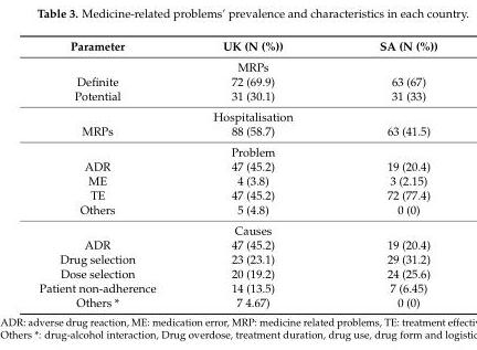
<table><thead><tr><td>Parameter</td><td>UK (N (%))</td><td>SA (N (%))</td></tr></thead><tbody><tr><td colspan="3">MRPs</td></tr><tr><td>Definite</td><td>72 (69.9)</td><td>63 (67)</td></tr><tr><td>Potential</td><td>31 (30.1)</td><td>31 (33)</td></tr><tr><td colspan="3">Hospitalisation</td></tr><tr><td>MRPs</td><td>88 (58.7)</td><td>63 (41.5)</td></tr><tr><td colspan="3">Problem</td></tr><tr><td>ADR</td><td>47 (45.2)</td><td>19 (20.4)</td></tr><tr><td>ME</td><td>4 (3.8)</td><td>3 (2.15)</td></tr><tr><td>TE</td><td>47 (45.2)</td><td>72 (77.4)</td></tr><tr><td>Others</td><td>5 (4.8)</td><td>0 (0)</td></tr><tr><td colspan="3">Causes</td></tr><tr><td>ADR</td><td>47 (45.2)</td><td>19 (20.4)</td></tr><tr><td>Drug selection</td><td>23 (23.1)</td><td>29 (31.2)</td></tr><tr><td>Dose selection</td><td>20 (19.2)</td><td>24 (25.6)</td></tr><tr><td>Patient non-adherence</td><td>14 (13.5)</td><td>7 (6.45)</td></tr><tr><td>Others *</td><td>7 4.67)</td><td>0 (0)</td></tr></tbody></table>